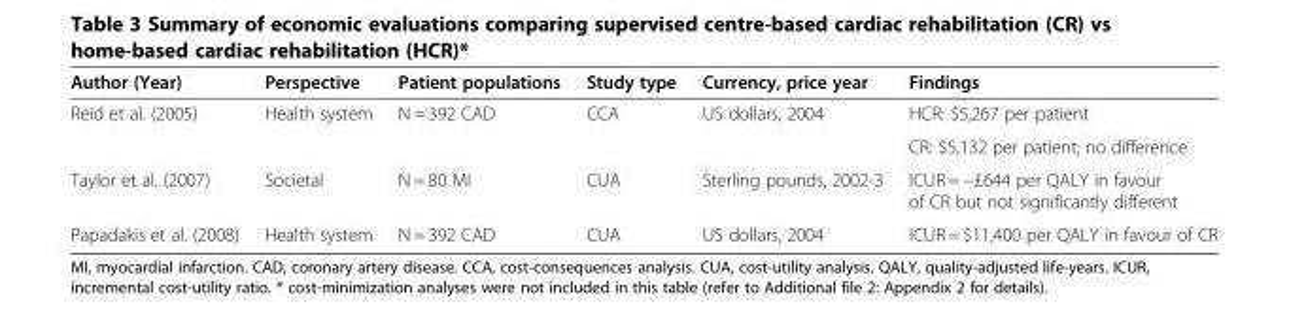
<table><thead><tr><td>Author (Year)</td><td>Perspective</td><td>Patient populations</td><td>Study type</td><td>Currency, price year</td><td>Findings</td></tr></thead><tbody><tr><td rowspan="2">Reid et al. (2005)</td><td>Health system</td><td>N = 392 CAD</td><td>CCA</td><td>US dollars, 2004</td><td>HCR: $5,267 per patient</td></tr><tr><td></td><td></td><td></td><td></td><td>CR: $5,132 per patient; no difference</td></tr><tr><td>Taylor et al. (2007)</td><td>Societal</td><td>N = 80 MI</td><td>CUA</td><td>Sterling pounds, 2002-3</td><td>ICUR = −£644 per QALY in favour of CR but not significantly different</td></tr><tr><td>Papadakis et al. (2008)</td><td>Health system</td><td>N = 392 CAD</td><td>CUA</td><td>US dollars, 2004</td><td>ICUR = $11,400 per QALY in favour of CR</td></tr></tbody></table>